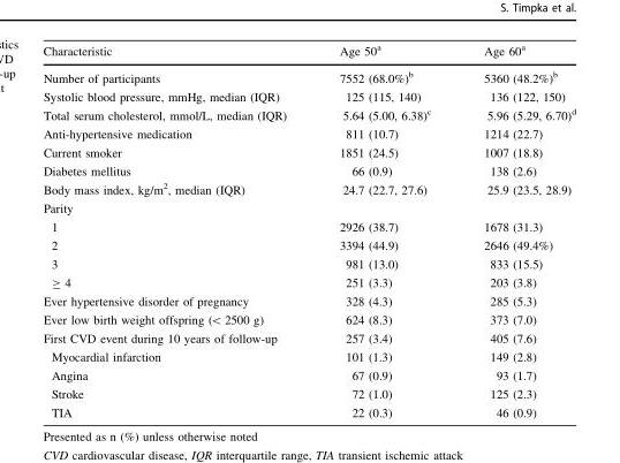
<table><thead><tr><td>Characteristic</td><td>Age 50<sup>a</sup></td><td>Age 60<sup>a</sup></td></tr></thead><tbody><tr><td>Number of participants</td><td>7552 (68.0%)<sup>b</sup></td><td>5360 (48.2%)<sup>b</sup></td></tr><tr><td>Systolic blood pressure, mmHg, median (IQR)</td><td>125 (115, 140)</td><td>136 (122, 150)</td></tr><tr><td>Total serum cholesterol, mmol/L, median (IQR)</td><td>5.64 (5.00, 6.38)<sup>c</sup></td><td>5.96 (5.29, 6.70)<sup>d</sup></td></tr><tr><td>Anti-hypertensive medication</td><td>811 (10.7)</td><td>1214 (22.7)</td></tr><tr><td>Current smoker</td><td>1851 (24.5)</td><td>1007 (18.8)</td></tr><tr><td>Diabetes mellitus</td><td>66 (0.9)</td><td>138 (2.6)</td></tr><tr><td>Body mass index, kg/m<sup>2</sup>, median (IQR)</td><td>24.7 (22.7, 27.6)</td><td>25.9 (23.5, 28.9)</td></tr><tr><td colspan="3">Parity</td></tr><tr><td>1</td><td>2926 (38.7)</td><td>1678 (31.3)</td></tr><tr><td>2</td><td>3394 (44.9)</td><td>2646 (49.4%)</td></tr><tr><td>3</td><td>981 (13.0)</td><td>833 (15.5)</td></tr><tr><td>≥ 4</td><td>251 (3.3)</td><td>203 (3.8)</td></tr><tr><td>Ever hypertensive disorder of pregnancy</td><td>328 (4.3)</td><td>285 (5.3)</td></tr><tr><td>Ever low birth weight offspring (&lt; 2500 g)</td><td>624 (8.3)</td><td>373 (7.0)</td></tr><tr><td>First CVD event during 10 years of follow-up</td><td>257 (3.4)</td><td>405 (7.6)</td></tr><tr><td>Myocardial infarction</td><td>101 (1.3)</td><td>149 (2.8)</td></tr><tr><td>Angina</td><td>67 (0.9)</td><td>93 (1.7)</td></tr><tr><td>Stroke</td><td>72 (1.0)</td><td>125 (2.3)</td></tr><tr><td>TIA</td><td>22 (0.3)</td><td>46 (0.9)</td></tr></tbody></table>